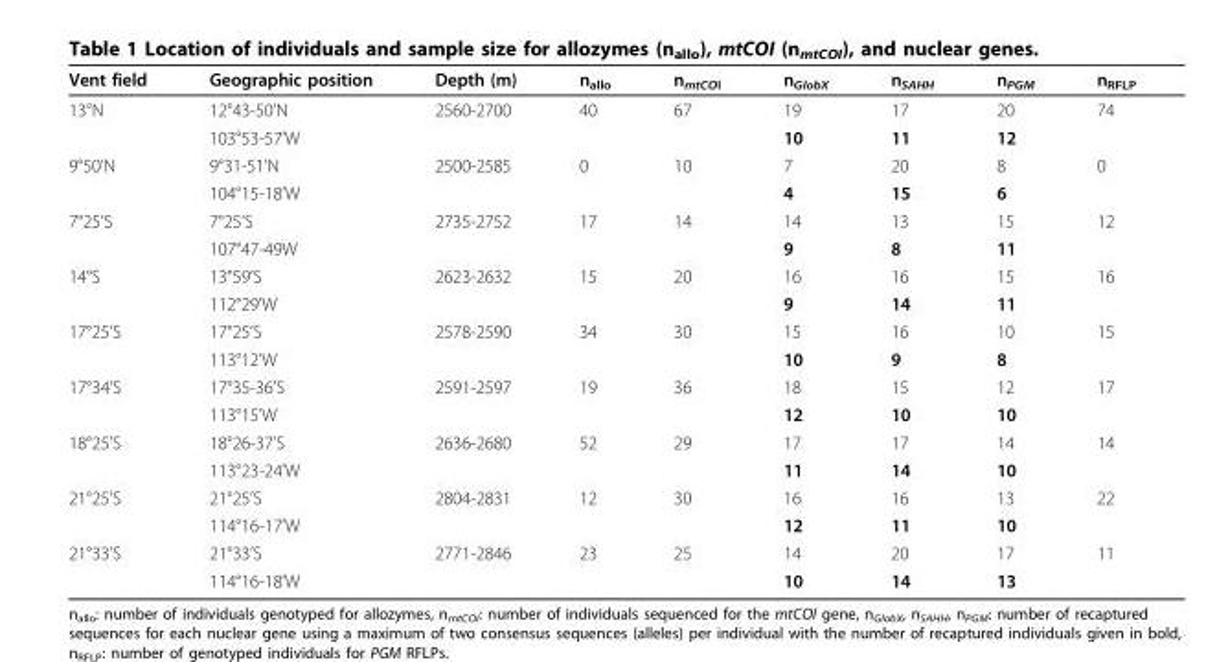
<table><thead><tr><td>Vent field</td><td>Geographic position</td><td>Depth (m)</td><td>n<sub>allo</sub></td><td>n<sub>mtCOI</sub></td><td>n<sub>GlobX</sub></td><td>n<sub>SAHH</sub></td><td>n<sub>PGM</sub></td><td>n<sub>RFLP</sub></td></tr></thead><tbody><tr><td rowspan="2">13°N</td><td>12°43-50’N</td><td>2560-2700</td><td>40</td><td>67</td><td>19</td><td>17</td><td>20</td><td>74</td></tr><tr><td>103°53-57’W</td><td></td><td></td><td></td><td>10</td><td>11</td><td>12</td><td></td></tr><tr><td rowspan="2">9°50’N</td><td>9°31-51’N</td><td>2500-2585</td><td>0</td><td>10</td><td>7</td><td>20</td><td>8</td><td>0</td></tr><tr><td>104°15-18’W</td><td></td><td></td><td></td><td>4</td><td>15</td><td>6</td><td></td></tr><tr><td rowspan="2">7°25’S</td><td>7°25’S</td><td>2735-2752</td><td>17</td><td>14</td><td>14</td><td>13</td><td>15</td><td>12</td></tr><tr><td>107°47-49W</td><td></td><td></td><td></td><td>9</td><td>8</td><td>11</td><td></td></tr><tr><td rowspan="2">14°S</td><td>13°59’S</td><td>2623-2632</td><td>15</td><td>20</td><td>16</td><td>16</td><td>15</td><td>16</td></tr><tr><td>112°29’W</td><td></td><td></td><td></td><td>9</td><td>14</td><td>11</td><td></td></tr><tr><td rowspan="2">17°25’S</td><td>17°25’S</td><td>2578-2590</td><td>34</td><td>30</td><td>15</td><td>16</td><td>10</td><td>15</td></tr><tr><td>113°12’W</td><td></td><td></td><td></td><td>10</td><td>9</td><td>8</td><td></td></tr><tr><td rowspan="2">17°34’S</td><td>17°35-36’S</td><td>2591-2597</td><td>19</td><td>36</td><td>18</td><td>15</td><td>12</td><td>17</td></tr><tr><td>113°15’W</td><td></td><td></td><td></td><td>12</td><td>10</td><td>10</td><td></td></tr><tr><td rowspan="2">18°25’S</td><td>18°26-37’S</td><td>2636-2680</td><td>52</td><td>29</td><td>17</td><td>17</td><td>14</td><td>14</td></tr><tr><td>113°23-24’W</td><td></td><td></td><td></td><td>11</td><td>14</td><td>10</td><td></td></tr><tr><td rowspan="2">21°25’S</td><td>21°25’S</td><td>2804-2831</td><td>12</td><td>30</td><td>16</td><td>16</td><td>13</td><td>22</td></tr><tr><td>114°16-17’W</td><td></td><td></td><td></td><td>12</td><td>11</td><td>10</td><td></td></tr><tr><td rowspan="2">21°33’S</td><td>21°33’S</td><td>2771-2846</td><td>23</td><td>25</td><td>14</td><td>20</td><td>17</td><td>11</td></tr><tr><td>114°16-18’W</td><td></td><td></td><td></td><td>10</td><td>14</td><td>13</td><td></td></tr></tbody></table>